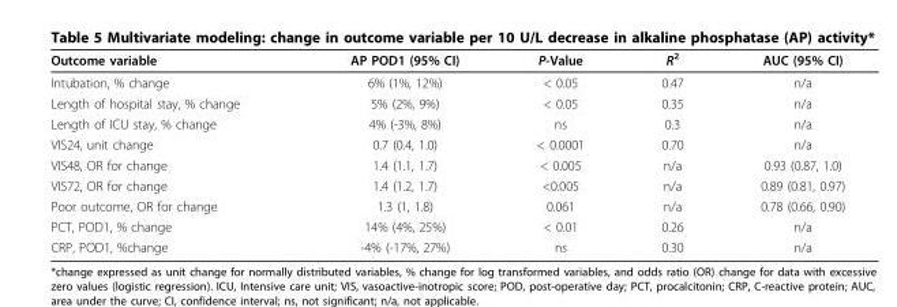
<table><thead><tr><td>Outcome variable</td><td>AP POD1 (95% CI)</td><td>P-Value</td><td>R<sup>2</sup></td><td>AUC (95% CI)</td></tr></thead><tbody><tr><td>Intubation, % change</td><td>6% (1%, 12%)</td><td>&lt; 0.05</td><td>0.47</td><td>n/a</td></tr><tr><td>Length of hospital stay, % change</td><td>5% (2%, 9%)</td><td>&lt; 0.05</td><td>0.35</td><td>n/a</td></tr><tr><td>Length of ICU stay, % change</td><td>4% (-3%, 8%)</td><td>ns</td><td>0.3</td><td>n/a</td></tr><tr><td>VIS24, unit change</td><td>0.7 (0.4, 1.0)</td><td>&lt; 0.0001</td><td>0.70</td><td>n/a</td></tr><tr><td>VIS48, OR for change</td><td>1.4 (1.1, 1.7)</td><td>&lt; 0.005</td><td>n/a</td><td>0.93 (0.87, 1.0)</td></tr><tr><td>VIS72, OR for change</td><td>1.4 (1.2, 1.7)</td><td>&lt;0.005</td><td>n/a</td><td>0.89 (0.81, 0.97)</td></tr><tr><td>Poor outcome, OR for change</td><td>1.3 (1, 1.8)</td><td>0.061</td><td>n/a</td><td>0.78 (0.66, 0.90)</td></tr><tr><td>PCT, POD1, % change</td><td>14% (4%, 25%)</td><td>&lt; 0.01</td><td>0.26</td><td>n/a</td></tr><tr><td>CRP, POD1, %change</td><td>-4% (-17%, 27%)</td><td>ns</td><td>0.30</td><td>n/a</td></tr></tbody></table>